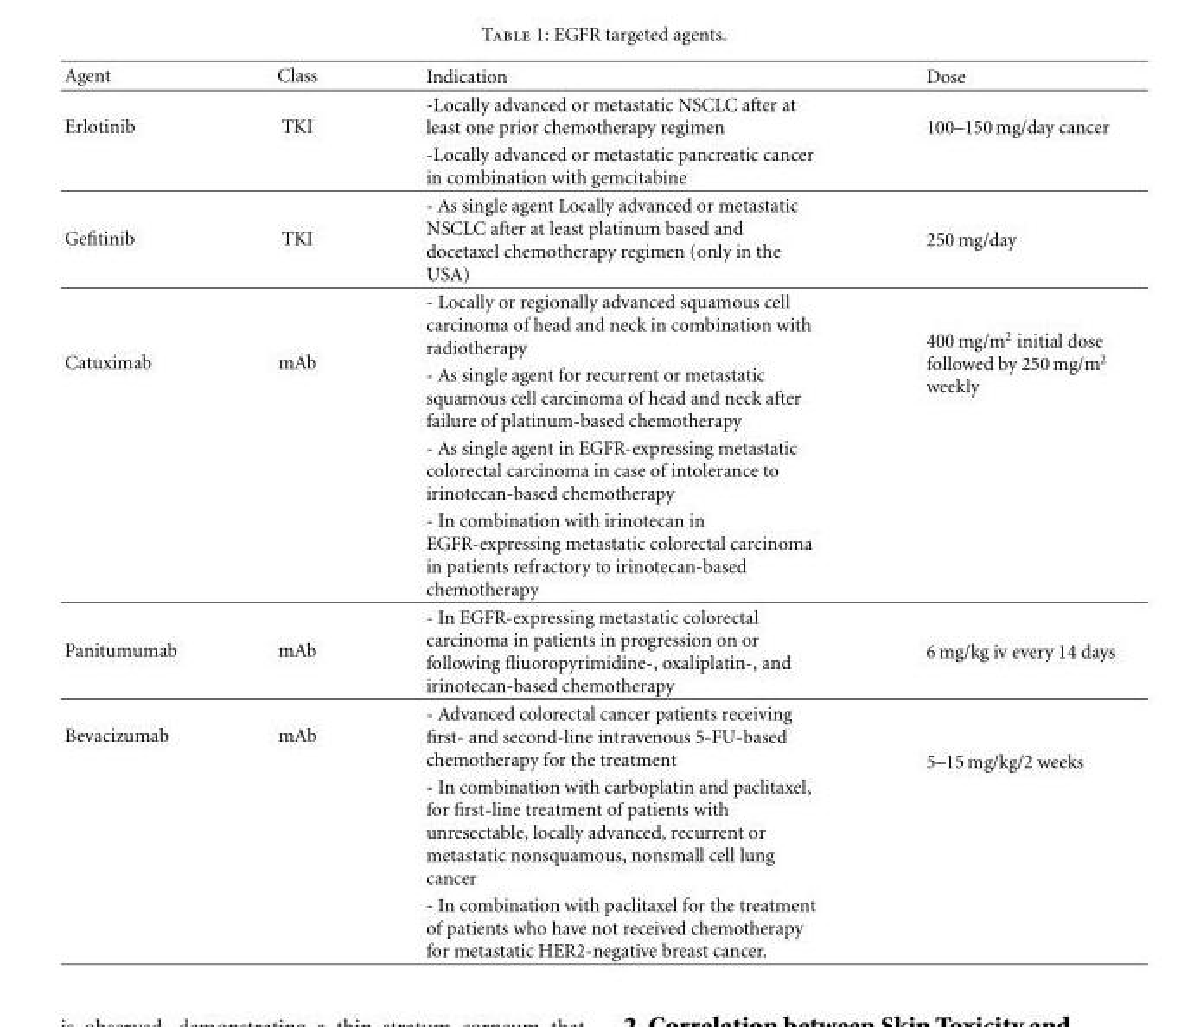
<table><thead><tr><td>Agent</td><td>Class</td><td>Indication</td><td>Dose</td></tr></thead><tbody><tr><td rowspan="2">Erlotinib</td><td rowspan="2">TKI</td><td>-Locally advanced or metastatic NSCLC after at least one prior chemotherapy regimen</td><td rowspan="2">100–150 mg/day cancer</td></tr><tr><td>-Locally advanced or metastatic pancreatic cancer in combination with gemcitabine</td></tr><tr><td>Gefitinib</td><td>TKI</td><td>- As single agent Locally advanced or metastatic NSCLC after at least platinum based and docetaxel chemotherapy regimen (only in the USA)</td><td>250 mg/day</td></tr><tr><td rowspan="4">Catuximab</td><td rowspan="4">mAb</td><td>- Locally or regionally advanced squamous cell carcinoma of head and neck in combination with radiotherapy</td><td rowspan="4">400 mg/m<sup>2</sup> initial dose followed by 250 mg/m<sup>2</sup> weekly</td></tr><tr><td>- As single agent for recurrent or metastatic squamous cell carcinoma of head and neck after failure of platinum-based chemotherapy</td></tr><tr><td>- As single agent in EGFR-expressing metastatic colorectal carcinoma in case of intolerance to irinotecan-based chemotherapy</td></tr><tr><td>- In combination with irinotecan in EGFR-expressing metastatic colorectal carcinoma in patients refractory to irinotecan-based chemotherapy</td></tr><tr><td>Panitumumab</td><td>mAb</td><td>- In EGFR-expressing metastatic colorectal carcinoma in patients in progression on or following fliuoropyrimidine-, oxaliplatin-, and irinotecan-based chemotherapy</td><td>6 mg/kg iv every 14 days</td></tr><tr><td rowspan="3">Bevacizumab</td><td>mAb</td><td>- Advanced colorectal cancer patients receiving first- and second-line intravenous 5-FU-based chemotherapy for the treatment</td><td rowspan="3">5–15 mg/kg/2 weeks</td></tr><tr><td></td><td>- In combination with carboplatin and paclitaxel, for first-line treatment of patients with unresectable, locally advanced, recurrent or metastatic nonsquamous, nonsmall cell lung cancer</td></tr><tr><td></td><td>- In combination with paclitaxel for the treatment of patients who have not received chemotherapy for metastatic HER2-negative breast cancer.</td></tr></tbody></table>